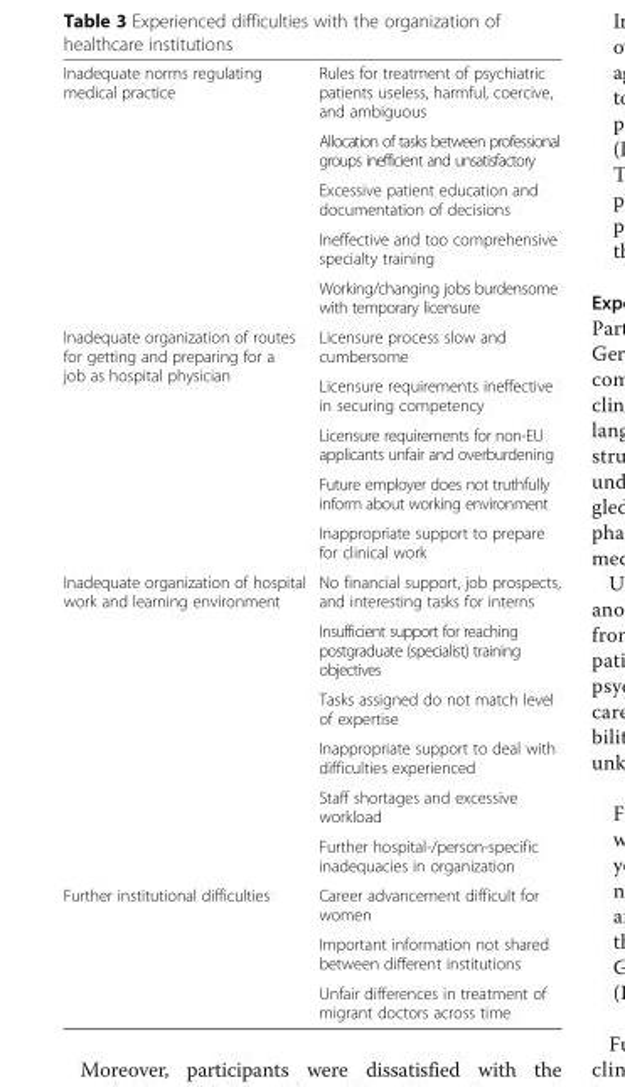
<table><tbody><tr><td rowspan="5">Inadequate norms regulating medical practice</td><td>Rules for treatment of psychiatric patients useless, harmful, coercive, and ambiguous</td></tr><tr><td>Allocation of tasks between professional groups inefficient and unsatisfactory</td></tr><tr><td>Excessive patient education and documentation of decisions</td></tr><tr><td>Ineffective and too comprehensive specialty training</td></tr><tr><td>Working/changing jobs burdensome with temporary licensure</td></tr><tr><td rowspan="5">Inadequate organization of routes for getting and preparing for a job as hospital physician</td><td>Licensure process slow and cumbersome</td></tr><tr><td>Licensure requirements ineffective in securing competency</td></tr><tr><td>Licensure requirements for non-EU applicants unfair and overburdening</td></tr><tr><td>Future employer does not truthfully inform about working environment</td></tr><tr><td>Inappropriate support to prepare for clinical work</td></tr><tr><td rowspan="6">Inadequate organization of hospital work and learning environment</td><td>No financial support, job prospects, and interesting tasks for interns</td></tr><tr><td>Insufficient support for reaching postgraduate (specialist) training objectives</td></tr><tr><td>Tasks assigned do not match level of expertise</td></tr><tr><td>Inappropriate support to deal with difficulties experienced</td></tr><tr><td>Staff shortages and excessive workload</td></tr><tr><td>Further hospital-/person-specific inadequacies in organization</td></tr><tr><td rowspan="3">Further institutional difficulties</td><td>Career advancement difficult for women</td></tr><tr><td>Important information not shared between different institutions</td></tr><tr><td>Unfair differences in treatment of migrant doctors across time</td></tr></tbody></table>